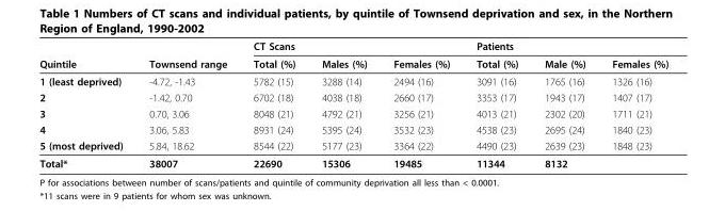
<table><thead><tr><td rowspan="7">Quintile 1 (least deprived) 2 3 4 5 (most deprived)</td><td rowspan="7">Townsend range -4.72, -1.43 -1.42, 0.70 0.70, 3.06 3.06, 5.83 5.84, 18.62</td><td colspan="3">CT Scans</td><td colspan="2">Patients</td><td rowspan="7">Females (%) 1326 (16) 1407 (17) 1711 (21) 1840 (23) 1848 (23)</td></tr><tr><td rowspan="6">Total (%) 5782 (15) 6702 (18) 8048 (21) 8931 (24) 8544 (22)</td><td rowspan="6">Males (%) 3288 (14) 4038 (18) 4792 (21) 5395 (24) 5177 (23)</td><td rowspan="6">Females (%) 2494 (16) 2660 (17) 3256 (21) 3532 (23) 3364 (22)</td><td rowspan="6">Total (%) 3091 (16) 3353 (17) 4013 (21) 4538 (23) 4490 (23)</td><td rowspan="6">Male (%) 1765 (16) 1943 (17) 2302 (20) 2695 (24) 2639 (23)</td></tr><tr></tr><tr></tr><tr></tr><tr></tr><tr></tr></thead><tbody><tr><td>Total*</td><td>38007</td><td>22690</td><td>15306</td><td>19485</td><td>11344</td><td>8132</td><td></td></tr></tbody></table>